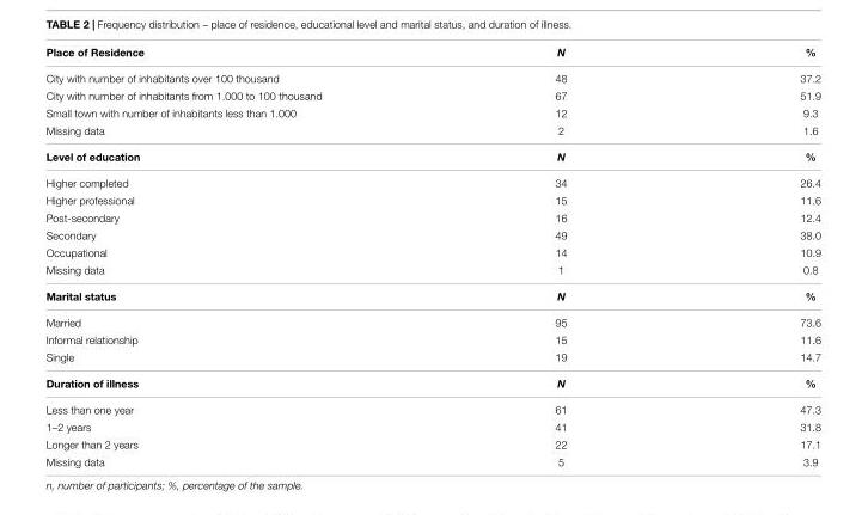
<table><thead><tr><td>Place of Residence</td><td>N</td><td>%</td></tr></thead><tbody><tr><td>City with number of inhabitants over 100 thousand</td><td>48</td><td>37.2</td></tr><tr><td>City with number of inhabitants from 1.000 to 100 thousand</td><td>67</td><td>51.9</td></tr><tr><td>Small town with number of inhabitants less than 1.000</td><td>12</td><td>9.3</td></tr><tr><td>Missing data</td><td>2</td><td>1.6</td></tr><tr><td>Level of education</td><td>N</td><td>%</td></tr><tr><td>Higher completed</td><td>34</td><td>26.4</td></tr><tr><td>Higher professional</td><td>15</td><td>11.6</td></tr><tr><td>Post-secondary</td><td>16</td><td>12.4</td></tr><tr><td>Secondary</td><td>49</td><td>38.0</td></tr><tr><td>Occupational</td><td>14</td><td>10.9</td></tr><tr><td>Missing data</td><td>1</td><td>0.8</td></tr><tr><td>Marital status</td><td>N</td><td>%</td></tr><tr><td>Married</td><td>95</td><td>73.6</td></tr><tr><td>Informal relationship</td><td>15</td><td>11.6</td></tr><tr><td>Single</td><td>19</td><td>14.7</td></tr><tr><td>Duration of illness</td><td>N</td><td>%</td></tr><tr><td>Less than one year</td><td>61</td><td>47.3</td></tr><tr><td>1–2 years</td><td>41</td><td>31.8</td></tr><tr><td>Longer than 2 years</td><td>22</td><td>17.1</td></tr><tr><td>Missing data</td><td>5</td><td>3.9</td></tr></tbody></table>